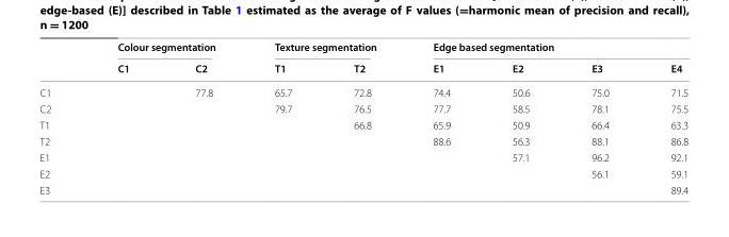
<table><thead><tr><td rowspan="2"></td><td colspan="2">Colour segmentation</td><td colspan="2">Texture segmentation</td><td colspan="4">Edge based segmentation</td></tr><tr><td>C1</td><td>C2</td><td>T1</td><td>T2</td><td>E1</td><td>E2</td><td>E3</td><td>E4</td></tr></thead><tbody><tr><td>C1</td><td></td><td>77.8</td><td>65.7</td><td>72.8</td><td>74.4</td><td>50.6</td><td>75.0</td><td>71.5</td></tr><tr><td>C2</td><td></td><td></td><td>79.7</td><td>76.5</td><td>77.7</td><td>58.5</td><td>78.1</td><td>75.5</td></tr><tr><td>T1</td><td></td><td></td><td></td><td>66.8</td><td>65.9</td><td>50.9</td><td>66.4</td><td>63.3</td></tr><tr><td>T2</td><td></td><td></td><td></td><td></td><td>88.6</td><td>56.3</td><td>88.1</td><td>86.8</td></tr><tr><td>E1</td><td></td><td></td><td></td><td></td><td></td><td>57.1</td><td>96.2</td><td>92.1</td></tr><tr><td>E2</td><td></td><td></td><td></td><td></td><td></td><td></td><td>56.1</td><td>59.1</td></tr><tr><td>E3</td><td></td><td></td><td></td><td></td><td></td><td></td><td></td><td>89.4</td></tr></tbody></table>